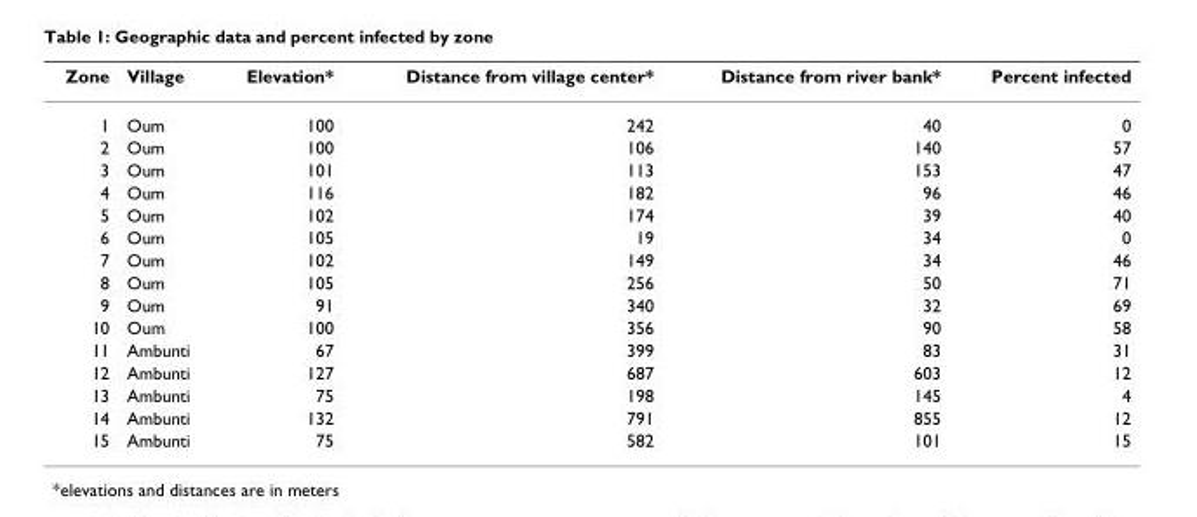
<table><thead><tr><td>Zone</td><td>Village</td><td>Elevation*</td><td>Distance from village center*</td><td>Distance from river bank*</td><td>Percent infected</td></tr></thead><tbody><tr><td>1</td><td>Oum</td><td>100</td><td>242</td><td>40</td><td>0</td></tr><tr><td>2</td><td>Oum</td><td>100</td><td>106</td><td>140</td><td>57</td></tr><tr><td>3</td><td>Oum</td><td>101</td><td>113</td><td>153</td><td>47</td></tr><tr><td>4</td><td>Oum</td><td>116</td><td>182</td><td>96</td><td>46</td></tr><tr><td>5</td><td>Oum</td><td>102</td><td>174</td><td>39</td><td>40</td></tr><tr><td>6</td><td>Oum</td><td>105</td><td>19</td><td>34</td><td>0</td></tr><tr><td>7</td><td>Oum</td><td>102</td><td>149</td><td>34</td><td>46</td></tr><tr><td>8</td><td>Oum</td><td>105</td><td>256</td><td>50</td><td>71</td></tr><tr><td>9</td><td>Oum</td><td>91</td><td>340</td><td>32</td><td>69</td></tr><tr><td>10</td><td>Oum</td><td>100</td><td>356</td><td>90</td><td>58</td></tr><tr><td>11</td><td>Ambunti</td><td>67</td><td>399</td><td>83</td><td>31</td></tr><tr><td>12</td><td>Ambunti</td><td>127</td><td>687</td><td>603</td><td>12</td></tr><tr><td>13</td><td>Ambunti</td><td>75</td><td>198</td><td>145</td><td>4</td></tr><tr><td>14</td><td>Ambunti</td><td>132</td><td>791</td><td>855</td><td>12</td></tr><tr><td>15</td><td>Ambunti</td><td>75</td><td>582</td><td>101</td><td>15</td></tr></tbody></table>